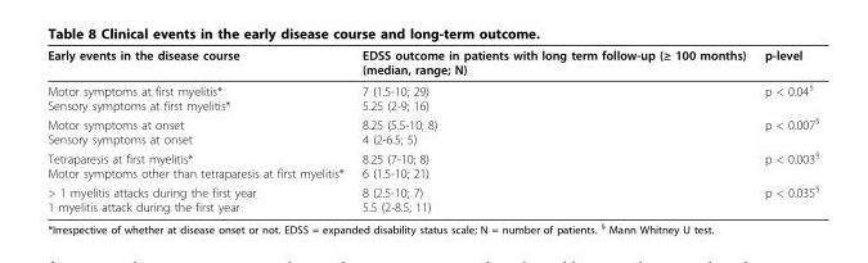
<table><thead><tr><td>Early events in the disease course</td><td>EDSS outcome in patients with long term follow-up (≥ 100 months) (median, range; N)</td><td>p-level</td></tr></thead><tbody><tr><td>Motor symptoms at first myelitis* Sensory symptoms at first myelitis*</td><td>7 (1.5-10; 29) 5.25 (2-9; 16)</td><td>p &lt; 0.04<sup>§</sup></td></tr><tr><td>Motor symptoms at onset Sensory symptoms at onset</td><td>8.25 (5.5-10; 8) 4 (2-6.5; 5)</td><td>p &lt; 0.007<sup>§</sup></td></tr><tr><td>Tetraparesis at first myelitis* Motor symptoms other than tetraparesis at first myelitis*</td><td>8.25 (7-10; 8) 6 (1.5-10; 21)</td><td>p &lt; 0.003<sup>§</sup></td></tr><tr><td>&gt; 1 myelitis attacks during the first year 1 myelitis attack during the first year</td><td>8 (2.5-10; 7) 5.5 (2-8.5; 11)</td><td>p &lt; 0.035<sup>§</sup></td></tr></tbody></table>